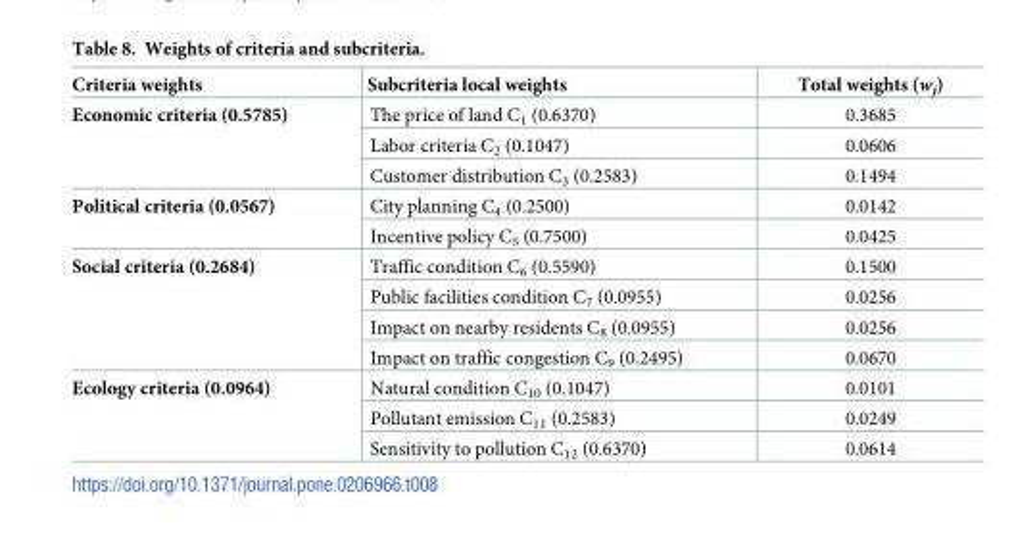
<table><thead><tr><td>Criteria weights</td><td>Subcriteria local weights</td><td>Total weights (w<sub>j</sub>)</td></tr></thead><tbody><tr><td rowspan="3">Economic criteria (0.5785)</td><td>The price of land C<sub>1</sub> (0.6370)</td><td>0.3685</td></tr><tr><td>Labor criteria C<sub>2</sub> (0.1047)</td><td>0.0606</td></tr><tr><td>Customer distribution C<sub>3</sub> (0.2583)</td><td>0.1494</td></tr><tr><td rowspan="2">Political criteria (0.0567)</td><td>City planning C<sub>4</sub> (0.2500)</td><td>0.0142</td></tr><tr><td>Incentive policy C<sub>5</sub> (0.7500)</td><td>0.0425</td></tr><tr><td rowspan="4">Social criteria (0.2684)</td><td>Traffic condition C<sub>6</sub> (0.5590)</td><td>0.1500</td></tr><tr><td>Public facilities condition C<sub>7</sub> (0.0955)</td><td>0.0256</td></tr><tr><td>Impact on nearby residents C<sub>8</sub> (0.0955)</td><td>0.0256</td></tr><tr><td>Impact on traffic congestion C<sub>9</sub> (0.2495)</td><td>0.0670</td></tr><tr><td rowspan="3">Ecology criteria (0.0964)</td><td>Natural condition C<sub>10</sub> (0.1047)</td><td>0.0101</td></tr><tr><td>Pollutant emission C<sub>11</sub> (0.2583)</td><td>0.0249</td></tr><tr><td>Sensitivity to pollution C<sub>12</sub> (0.6370)</td><td>0.0614</td></tr></tbody></table>